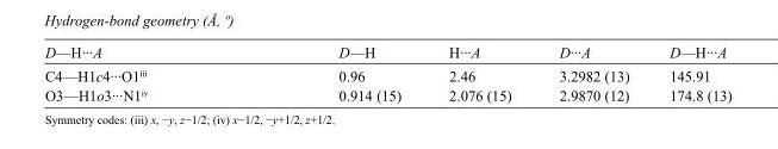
<table><tbody><tr><td>D—H···A</td><td>D—H</td><td>H···A</td><td>D···A</td><td>D—H···A</td></tr><tr><td>C4—H1c4···O1<sup>iii</sup></td><td>0.96</td><td>2.46</td><td>3.2982 (13)</td><td>145.91</td></tr><tr><td>O3—H1o3···N1<sup>iv</sup></td><td>0.914 (15)</td><td>2.076 (15)</td><td>2.9870 (12)</td><td>174.8 (13)</td></tr></tbody></table>